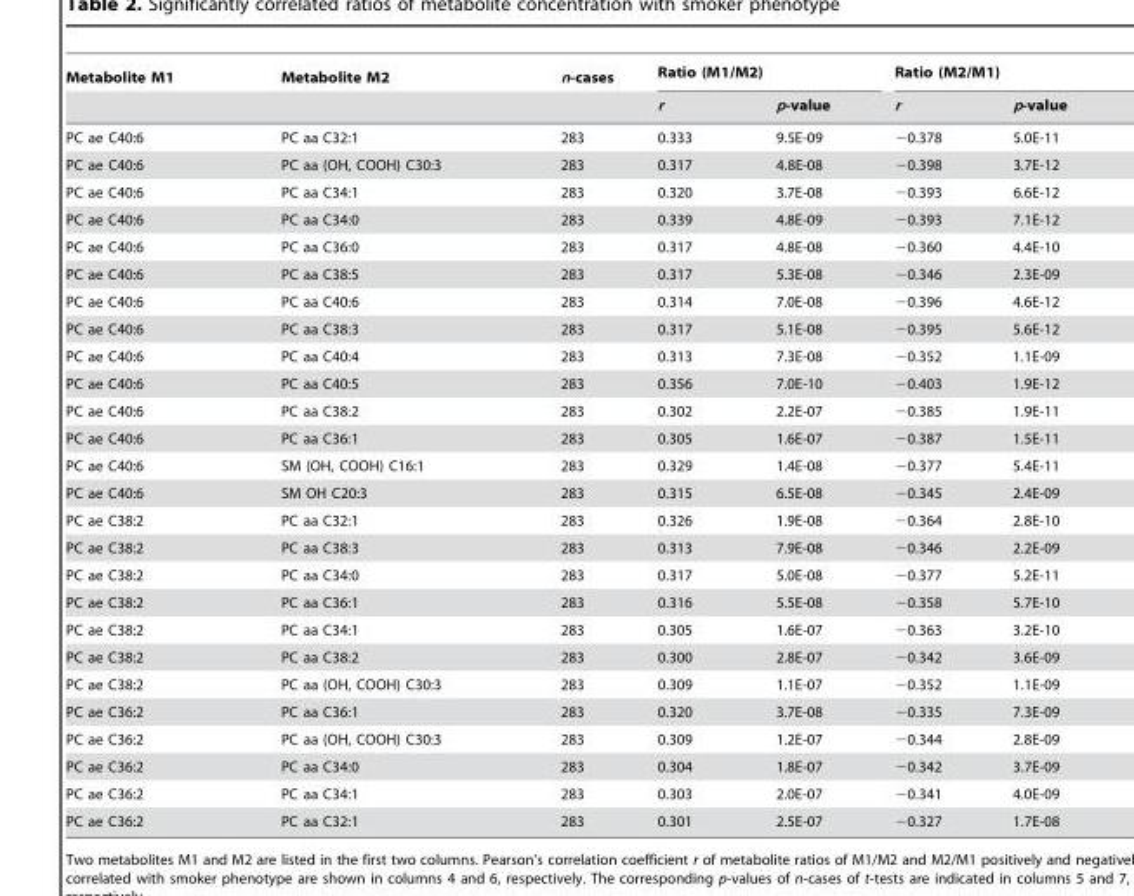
<table><thead><tr><td rowspan="2">Metabolite M1</td><td rowspan="2">Metabolite M2</td><td rowspan="2">n-cases</td><td colspan="2">Ratio (M1/M2)</td><td colspan="2">Ratio (M2/M1)</td></tr><tr><td>r</td><td>p-value</td><td>r</td><td>p-value</td></tr></thead><tbody><tr><td>PC ae C40:6</td><td>PC aa C32:1</td><td>283</td><td>0.333</td><td>9.5E-09</td><td>−0.378</td><td>5.0E-11</td></tr><tr><td>PC ae C40:6</td><td>PC aa (OH, COOH) C30:3</td><td>283</td><td>0.317</td><td>4.8E-08</td><td>−0.398</td><td>3.7E-12</td></tr><tr><td>PC ae C40:6</td><td>PC aa C34:1</td><td>283</td><td>0.320</td><td>3.7E-08</td><td>−0.393</td><td>6.6E-12</td></tr><tr><td>PC ae C40:6</td><td>PC aa C34:0</td><td>283</td><td>0.339</td><td>4.8E-09</td><td>−0.393</td><td>7.1E-12</td></tr><tr><td>PC ae C40:6</td><td>PC aa C36:0</td><td>283</td><td>0.317</td><td>4.8E-08</td><td>−0.360</td><td>4.4E-10</td></tr><tr><td>PC ae C40:6</td><td>PC aa C38:5</td><td>283</td><td>0.317</td><td>5.3E-08</td><td>−0.346</td><td>2.3E-09</td></tr><tr><td>PC ae C40:6</td><td>PC aa C40:6</td><td>283</td><td>0.314</td><td>7.0E-08</td><td>−0.396</td><td>4.6E-12</td></tr><tr><td>PC ae C40:6</td><td>PC aa C38:3</td><td>283</td><td>0.317</td><td>5.1E-08</td><td>−0.395</td><td>5.6E-12</td></tr><tr><td>PC ae C40:6</td><td>PC aa C40:4</td><td>283</td><td>0.313</td><td>7.3E-08</td><td>−0.352</td><td>1.1E-09</td></tr><tr><td>PC ae C40:6</td><td>PC aa C40:5</td><td>283</td><td>0.356</td><td>7.0E-10</td><td>−0.403</td><td>1.9E-12</td></tr><tr><td>PC ae C40:6</td><td>PC aa C38:2</td><td>283</td><td>0.302</td><td>2.2E-07</td><td>−0.385</td><td>1.9E-11</td></tr><tr><td>PC ae C40:6</td><td>PC aa C36:1</td><td>283</td><td>0.305</td><td>1.6E-07</td><td>−0.387</td><td>1.5E-11</td></tr><tr><td>PC ae C40:6</td><td>SM (OH, COOH) C16:1</td><td>283</td><td>0.329</td><td>1.4E-08</td><td>−0.377</td><td>5.4E-11</td></tr><tr><td>PC ae C40:6</td><td>SM OH C20:3</td><td>283</td><td>0.315</td><td>6.5E-08</td><td>−0.345</td><td>2.4E-09</td></tr><tr><td>PC ae C38:2</td><td>PC aa C32:1</td><td>283</td><td>0.326</td><td>1.9E-08</td><td>−0.364</td><td>2.8E-10</td></tr><tr><td>PC ae C38:2</td><td>PC aa C38:3</td><td>283</td><td>0.313</td><td>7.9E-08</td><td>−0.346</td><td>2.2E-09</td></tr><tr><td>PC ae C38:2</td><td>PC aa C34:0</td><td>283</td><td>0.317</td><td>5.0E-08</td><td>−0.377</td><td>5.2E-11</td></tr><tr><td>PC ae C38:2</td><td>PC aa C36:1</td><td>283</td><td>0.316</td><td>5.5E-08</td><td>−0.358</td><td>5.7E-10</td></tr><tr><td>PC ae C38:2</td><td>PC aa C34:1</td><td>283</td><td>0.305</td><td>1.6E-07</td><td>−0.363</td><td>3.2E-10</td></tr><tr><td>PC ae C38:2</td><td>PC aa C38:2</td><td>283</td><td>0.300</td><td>2.8E-07</td><td>−0.342</td><td>3.6E-09</td></tr><tr><td>PC ae C38:2</td><td>PC aa (OH, COOH) C30:3</td><td>283</td><td>0.309</td><td>1.1E-07</td><td>−0.352</td><td>1.1E-09</td></tr><tr><td>PC ae C36:2</td><td>PC aa C36:1</td><td>283</td><td>0.320</td><td>3.7E-08</td><td>−0.335</td><td>7.3E-09</td></tr><tr><td>PC ae C36:2</td><td>PC aa (OH, COOH) C30:3</td><td>283</td><td>0.309</td><td>1.2E-07</td><td>−0.344</td><td>2.8E-09</td></tr><tr><td>PC ae C36:2</td><td>PC aa C34:0</td><td>283</td><td>0.304</td><td>1.8E-07</td><td>−0.342</td><td>3.7E-09</td></tr><tr><td>PC ae C36:2</td><td>PC aa C34:1</td><td>283</td><td>0.303</td><td>2.0E-07</td><td>−0.341</td><td>4.0E-09</td></tr><tr><td>PC ae C36:2</td><td>PC aa C32:1</td><td>283</td><td>0.301</td><td>2.5E-07</td><td>−0.327</td><td>1.7E-08</td></tr></tbody></table>